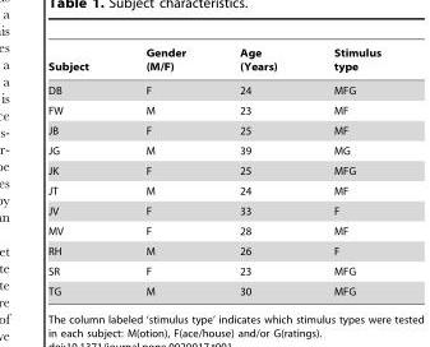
<table><thead><tr><td>Subject</td><td>Gender (M/F)</td><td>Age (Years)</td><td>Stimulus type</td></tr></thead><tbody><tr><td>DB</td><td>F</td><td>24</td><td>MFG</td></tr><tr><td>FW</td><td>M</td><td>23</td><td>MF</td></tr><tr><td>JB</td><td>F</td><td>25</td><td>MF</td></tr><tr><td>JG</td><td>M</td><td>39</td><td>MG</td></tr><tr><td>JK</td><td>F</td><td>25</td><td>MFG</td></tr><tr><td>JT</td><td>M</td><td>24</td><td>MF</td></tr><tr><td>JV</td><td>F</td><td>33</td><td>F</td></tr><tr><td>MV</td><td>F</td><td>28</td><td>MF</td></tr><tr><td>RH</td><td>M</td><td>26</td><td>F</td></tr><tr><td>SR</td><td>F</td><td>23</td><td>MFG</td></tr><tr><td>TG</td><td>M</td><td>30</td><td>MFG</td></tr></tbody></table>